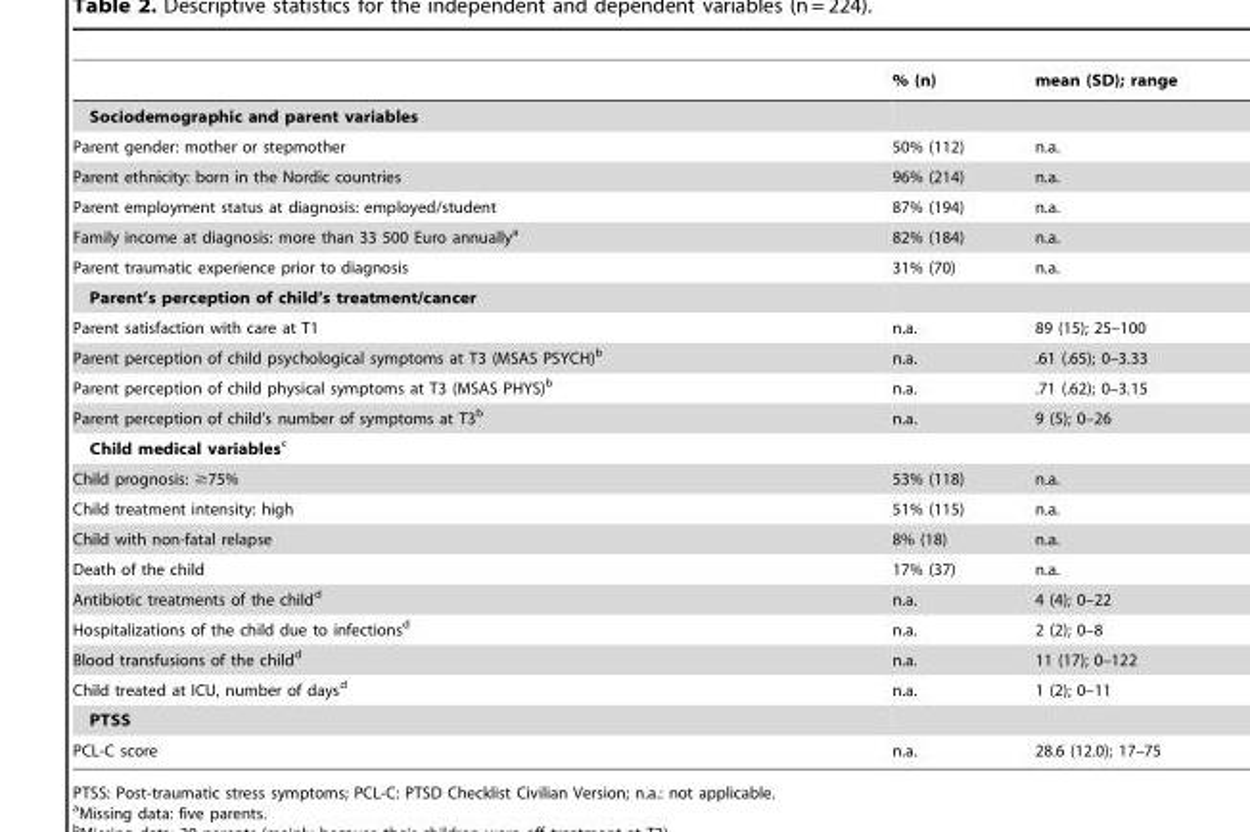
<table><thead><tr><td></td><td>% (n)</td><td>mean (SD); range</td></tr></thead><tbody><tr><td colspan="3">Sociodemographic and parent variables</td></tr><tr><td>Parent gender: mother or stepmother</td><td>50% (112)</td><td>n.a.</td></tr><tr><td>Parent ethnicity: born in the Nordic countries</td><td>96% (214)</td><td>n.a.</td></tr><tr><td>Parent employment status at diagnosis: employed/student</td><td>87% (194)</td><td>n.a.</td></tr><tr><td>Family income at diagnosis: more than 33 500 Euro annually<sup>a</sup></td><td>82% (184)</td><td>n.a.</td></tr><tr><td>Parent traumatic experience prior to diagnosis</td><td>31% (70)</td><td>n.a.</td></tr><tr><td colspan="3">Parent’s perception of child’s treatment/cancer</td></tr><tr><td>Parent satisfaction with care at T1</td><td>n.a.</td><td>89 (15); 25–100</td></tr><tr><td>Parent perception of child psychological symptoms at T3 (MSAS PSYCH)<sup>b</sup></td><td>n.a.</td><td>.61 (.65); 0–3.33</td></tr><tr><td>Parent perception of child physical symptoms at T3 (MSAS PHYS)<sup>b</sup></td><td>n.a.</td><td>.71 (.62); 0–3.15</td></tr><tr><td>Parent perception of child’s number of symptoms at T3<sup>b</sup></td><td>n.a.</td><td>9 (5); 0–26</td></tr><tr><td colspan="3">Child medical variablesc</td></tr><tr><td>Child prognosis: ≥75%</td><td>53% (118)</td><td>n.a.</td></tr><tr><td>Child treatment intensity: high</td><td>51% (115)</td><td>n.a.</td></tr><tr><td>Child with non-fatal relapse</td><td>8% (18)</td><td>n.a.</td></tr><tr><td>Death of the child</td><td>17% (37)</td><td>n.a.</td></tr><tr><td>Antibiotic treatments of the child<sup>d</sup></td><td>n.a.</td><td>4 (4); 0–22</td></tr><tr><td>Hospitalizations of the child due to infections<sup>d</sup></td><td>n.a.</td><td>2 (2); 0–8</td></tr><tr><td>Blood transfusions of the child<sup>d</sup></td><td>n.a.</td><td>11 (17); 0–122</td></tr><tr><td>Child treated at ICU, number of days<sup>d</sup></td><td>n.a.</td><td>1 (2); 0–11</td></tr><tr><td colspan="3">PTSS</td></tr><tr><td>PCL-C score</td><td>n.a.</td><td>28.6 (12.0); 17–75</td></tr></tbody></table>